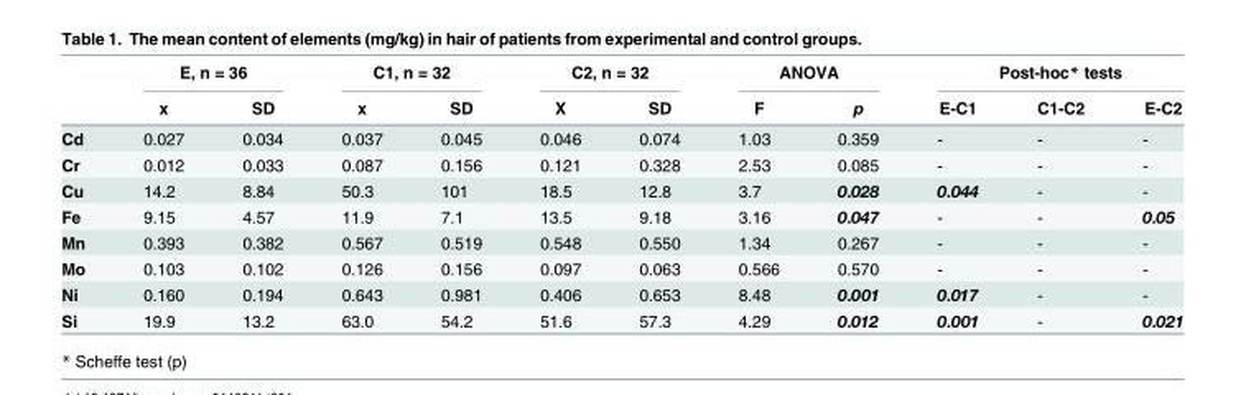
<table><thead><tr><td rowspan="2"></td><td colspan="2">E, n = 36</td><td colspan="2">C1, n = 32</td><td colspan="2">C2, n = 32</td><td colspan="2">ANOVA</td><td colspan="3">Post-hoc* tests</td></tr><tr><td>x</td><td>SD</td><td>x</td><td>SD</td><td>X</td><td>SD</td><td>F</td><td>p</td><td>E-C1</td><td>C1-C2</td><td>E-C2</td></tr></thead><tbody><tr><td>Cd</td><td>0.027</td><td>0.034</td><td>0.037</td><td>0.045</td><td>0.046</td><td>0.074</td><td>1.03</td><td>0.359</td><td>-</td><td>-</td><td>-</td></tr><tr><td>Cr</td><td>0.012</td><td>0.033</td><td>0.087</td><td>0.156</td><td>0.121</td><td>0.328</td><td>2.53</td><td>0.085</td><td>-</td><td>-</td><td>-</td></tr><tr><td>Cu</td><td>14.2</td><td>8.84</td><td>50.3</td><td>101</td><td>18.5</td><td>12.8</td><td>3.7</td><td>0.028</td><td>0.044</td><td>-</td><td>-</td></tr><tr><td>Fe</td><td>9.15</td><td>4.57</td><td>11.9</td><td>7.1</td><td>13.5</td><td>9.18</td><td>3.16</td><td>0.047</td><td>-</td><td>-</td><td>0.05</td></tr><tr><td>Mn</td><td>0.393</td><td>0.382</td><td>0.567</td><td>0.519</td><td>0.548</td><td>0.550</td><td>1.34</td><td>0.267</td><td>-</td><td>-</td><td>-</td></tr><tr><td>Mo</td><td>0.103</td><td>0.102</td><td>0.126</td><td>0.156</td><td>0.097</td><td>0.063</td><td>0.566</td><td>0.570</td><td>-</td><td>-</td><td>-</td></tr><tr><td>Ni</td><td>0.160</td><td>0.194</td><td>0.643</td><td>0.981</td><td>0.406</td><td>0.653</td><td>8.48</td><td>0.001</td><td>0.017</td><td>-</td><td>-</td></tr><tr><td>Si</td><td>19.9</td><td>13.2</td><td>63.0</td><td>54.2</td><td>51.6</td><td>57.3</td><td>4.29</td><td>0.012</td><td>0.001</td><td>-</td><td>0.021</td></tr></tbody></table>